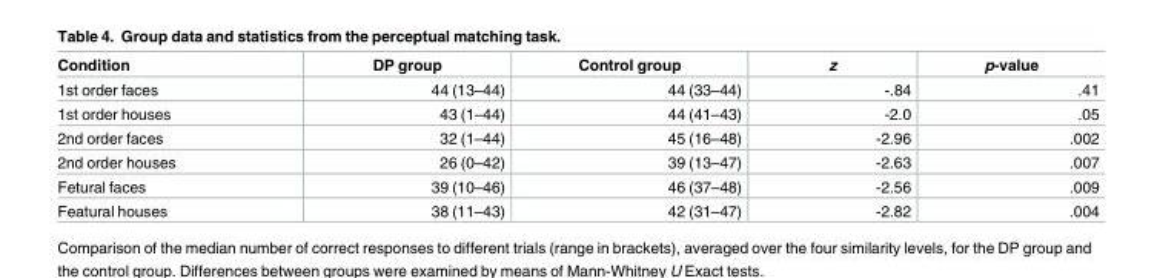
<table><thead><tr><td>Condition</td><td>DP group</td><td>Control group</td><td>z</td><td>p-value</td></tr></thead><tbody><tr><td>1st order faces</td><td>44 (13–44)</td><td>44 (33–44)</td><td>-.84</td><td>.41</td></tr><tr><td>1st order houses</td><td>43 (1–44)</td><td>44 (41–43)</td><td>-2.0</td><td>.05</td></tr><tr><td>2nd order faces</td><td>32 (1–44)</td><td>45 (16–48)</td><td>-2.96</td><td>.002</td></tr><tr><td>2nd order houses</td><td>26 (0–42)</td><td>39 (13–47)</td><td>-2.63</td><td>.007</td></tr><tr><td>Fetural faces</td><td>39 (10–46)</td><td>46 (37–48)</td><td>-2.56</td><td>.009</td></tr><tr><td>Featural houses</td><td>38 (11–43)</td><td>42 (31–47)</td><td>-2.82</td><td>.004</td></tr></tbody></table>